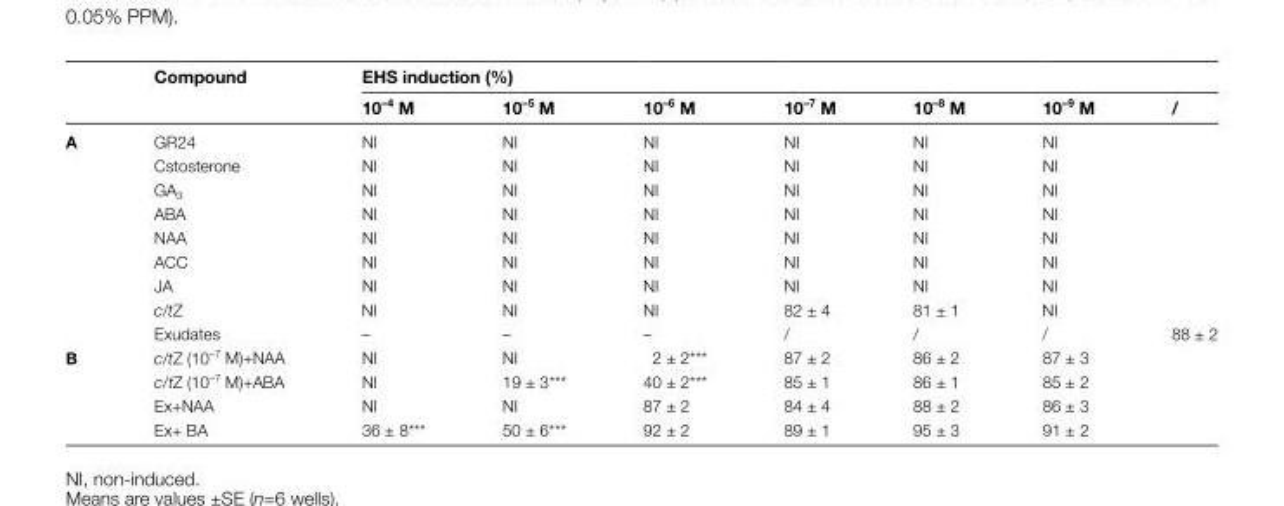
<table><thead><tr><td rowspan="2"></td><td rowspan="2">Compound</td><td colspan="7">EHS induction (%)</td></tr><tr><td>10<sup>–4</sup> M</td><td>10<sup>–5</sup> M</td><td>10<sup>–6</sup> M</td><td>10<sup>–7</sup> M</td><td>10<sup>–8</sup> M</td><td>10<sup>–9</sup> M</td><td>/</td></tr></thead><tbody><tr><td rowspan="9">A</td><td>GR24</td><td>NI</td><td>NI</td><td>NI</td><td>NI</td><td>NI</td><td>NI</td><td></td></tr><tr><td>Cstosterone</td><td>NI</td><td>NI</td><td>NI</td><td>NI</td><td>NI</td><td>NI</td><td></td></tr><tr><td>GA<sub>3</sub></td><td>NI</td><td>NI</td><td>NI</td><td>NI</td><td>NI</td><td>NI</td><td></td></tr><tr><td>ABA</td><td>NI</td><td>NI</td><td>NI</td><td>NI</td><td>NI</td><td>NI</td><td></td></tr><tr><td>NAA</td><td>NI</td><td>NI</td><td>NI</td><td>NI</td><td>NI</td><td>NI</td><td></td></tr><tr><td>ACC</td><td>NI</td><td>NI</td><td>NI</td><td>NI</td><td>NI</td><td>NI</td><td></td></tr><tr><td>JA</td><td>NI</td><td>NI</td><td>NI</td><td>NI</td><td>NI</td><td>NI</td><td></td></tr><tr><td>c/tZ</td><td>NI</td><td>NI</td><td>NI</td><td>82 ± 4</td><td>81 ± 1</td><td>NI</td><td></td></tr><tr><td>Exudates</td><td>–</td><td>–</td><td>–</td><td>/</td><td>/</td><td>/</td><td>88 ± 2</td></tr><tr><td rowspan="4">B</td><td>c/tZ (10<sup>–7</sup> M)+NAA</td><td>NI</td><td>NI</td><td>2 ± 2***</td><td>87 ± 2</td><td>86 ± 2</td><td>87 ± 3</td><td></td></tr><tr><td>c/tZ (10<sup>–7</sup> M)+ABA</td><td>NI</td><td>19 ± 3***</td><td>40 ± 2***</td><td>85 ± 1</td><td>86 ± 1</td><td>85 ± 2</td><td></td></tr><tr><td>Ex+NAA</td><td>NI</td><td>NI</td><td>87 ± 2</td><td>84 ± 4</td><td>88 ± 2</td><td>86 ± 3</td><td></td></tr><tr><td>Ex+ BA</td><td>36 ± 8***</td><td>50 ± 6***</td><td>92 ± 2</td><td>89 ± 1</td><td>95 ± 3</td><td>91 ± 2</td><td></td></tr></tbody></table>